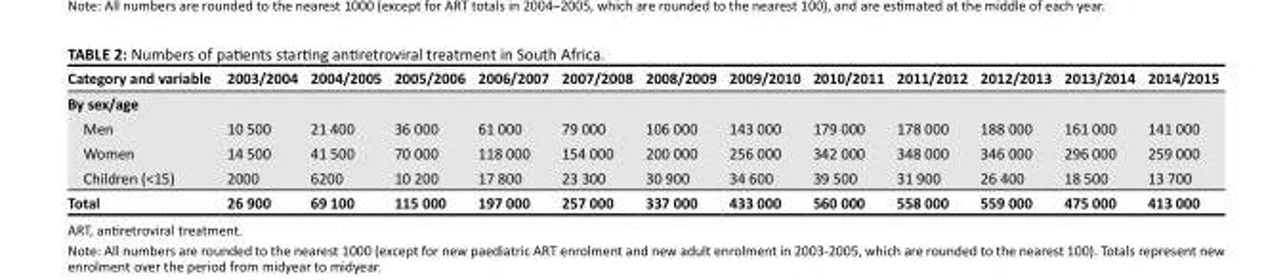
<table><thead><tr><td>Category and variable</td><td>2003/2004</td><td>2004/2005</td><td>2005/2006</td><td>2006/2007</td><td>2007/2008</td><td>2008/2009</td><td>2009/2010</td><td>2010/2011</td><td>2011/2012</td><td>2012/2013</td><td>2013/2014</td><td>2014/2015</td></tr></thead><tbody><tr><td colspan="13">By sex/age</td></tr><tr><td>Men</td><td>10 500</td><td>21 400</td><td>36 000</td><td>61 000</td><td>79 000</td><td>106 000</td><td>143 000</td><td>179 000</td><td>178 000</td><td>188 000</td><td>161 000</td><td>141 000</td></tr><tr><td>Women</td><td>14 500</td><td>41 500</td><td>70 000</td><td>118 000</td><td>154 000</td><td>200 000</td><td>256 000</td><td>342 000</td><td>348 000</td><td>346 000</td><td>296 000</td><td>259 000</td></tr><tr><td>Children (&lt;15)</td><td>2000</td><td>6200</td><td>10 200</td><td>17 800</td><td>23 300</td><td>30 900</td><td>34 600</td><td>39 500</td><td>31 900</td><td>26 400</td><td>18 500</td><td>13 700</td></tr><tr><td>Total</td><td>26 900</td><td>69 100</td><td>115 000</td><td>197 000</td><td>257 000</td><td>337 000</td><td>433 000</td><td>560 000</td><td>558 000</td><td>559 000</td><td>475 000</td><td>413 000</td></tr></tbody></table>